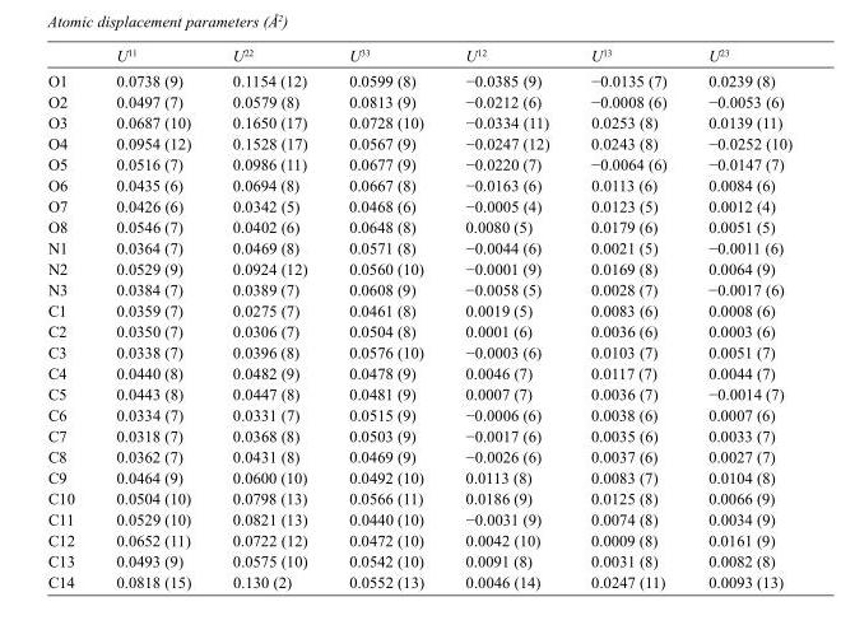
<table><thead><tr><td></td><td>U<sup>11</sup></td><td>U<sup>22</sup></td><td>U<sup>33</sup></td><td>U<sup>12</sup></td><td>U<sup>13</sup></td><td>U<sup>23</sup></td></tr></thead><tbody><tr><td>O1</td><td>0.0738 (9)</td><td>0.1154 (12)</td><td>0.0599 (8)</td><td>−0.0385 (9)</td><td>−0.0135 (7)</td><td>0.0239 (8)</td></tr><tr><td>O2</td><td>0.0497 (7)</td><td>0.0579 (8)</td><td>0.0813 (9)</td><td>−0.0212 (6)</td><td>−0.0008 (6)</td><td>−0.0053 (6)</td></tr><tr><td>O3</td><td>0.0687 (10)</td><td>0.1650 (17)</td><td>0.0728 (10)</td><td>−0.0334 (11)</td><td>0.0253 (8)</td><td>0.0139 (11)</td></tr><tr><td>O4</td><td>0.0954 (12)</td><td>0.1528 (17)</td><td>0.0567 (9)</td><td>−0.0247 (12)</td><td>0.0243 (8)</td><td>−0.0252 (10)</td></tr><tr><td>O5</td><td>0.0516 (7)</td><td>0.0986 (11)</td><td>0.0677 (9)</td><td>−0.0220 (7)</td><td>−0.0064 (6)</td><td>−0.0147 (7)</td></tr><tr><td>O6</td><td>0.0435 (6)</td><td>0.0694 (8)</td><td>0.0667 (8)</td><td>−0.0163 (6)</td><td>0.0113 (6)</td><td>0.0084 (6)</td></tr><tr><td>O7</td><td>0.0426 (6)</td><td>0.0342 (5)</td><td>0.0468 (6)</td><td>−0.0005 (4)</td><td>0.0123 (5)</td><td>0.0012 (4)</td></tr><tr><td>O8</td><td>0.0546 (7)</td><td>0.0402 (6)</td><td>0.0648 (8)</td><td>0.0080 (5)</td><td>0.0179 (6)</td><td>0.0051 (5)</td></tr><tr><td>N1</td><td>0.0364 (7)</td><td>0.0469 (8)</td><td>0.0571 (8)</td><td>−0.0044 (6)</td><td>0.0021 (5)</td><td>−0.0011 (6)</td></tr><tr><td>N2</td><td>0.0529 (9)</td><td>0.0924 (12)</td><td>0.0560 (10)</td><td>−0.0001 (9)</td><td>0.0169 (8)</td><td>0.0064 (9)</td></tr><tr><td>N3</td><td>0.0384 (7)</td><td>0.0389 (7)</td><td>0.0608 (9)</td><td>−0.0058 (5)</td><td>0.0028 (7)</td><td>−0.0017 (6)</td></tr><tr><td>C1</td><td>0.0359 (7)</td><td>0.0275 (7)</td><td>0.0461 (8)</td><td>0.0019 (5)</td><td>0.0083 (6)</td><td>0.0008 (6)</td></tr><tr><td>C2</td><td>0.0350 (7)</td><td>0.0306 (7)</td><td>0.0504 (8)</td><td>0.0001 (6)</td><td>0.0036 (6)</td><td>0.0003 (6)</td></tr><tr><td>C3</td><td>0.0338 (7)</td><td>0.0396 (8)</td><td>0.0576 (10)</td><td>−0.0003 (6)</td><td>0.0103 (7)</td><td>0.0051 (7)</td></tr><tr><td>C4</td><td>0.0440 (8)</td><td>0.0482 (9)</td><td>0.0478 (9)</td><td>0.0046 (7)</td><td>0.0117 (7)</td><td>0.0044 (7)</td></tr><tr><td>C5</td><td>0.0443 (8)</td><td>0.0447 (8)</td><td>0.0481 (9)</td><td>0.0007 (7)</td><td>0.0036 (7)</td><td>−0.0014 (7)</td></tr><tr><td>C6</td><td>0.0334 (7)</td><td>0.0331 (7)</td><td>0.0515 (9)</td><td>−0.0006 (6)</td><td>0.0038 (6)</td><td>0.0007 (6)</td></tr><tr><td>C7</td><td>0.0318 (7)</td><td>0.0368 (8)</td><td>0.0503 (9)</td><td>−0.0017 (6)</td><td>0.0035 (6)</td><td>0.0033 (7)</td></tr><tr><td>C8</td><td>0.0362 (7)</td><td>0.0431 (8)</td><td>0.0469 (9)</td><td>−0.0026 (6)</td><td>0.0037 (6)</td><td>0.0027 (7)</td></tr><tr><td>C9</td><td>0.0464 (9)</td><td>0.0600 (10)</td><td>0.0492 (10)</td><td>0.0113 (8)</td><td>0.0083 (7)</td><td>0.0104 (8)</td></tr><tr><td>C10</td><td>0.0504 (10)</td><td>0.0798 (13)</td><td>0.0566 (11)</td><td>0.0186 (9)</td><td>0.0125 (8)</td><td>0.0066 (9)</td></tr><tr><td>C11</td><td>0.0529 (10)</td><td>0.0821 (13)</td><td>0.0440 (10)</td><td>−0.0031 (9)</td><td>0.0074 (8)</td><td>0.0034 (9)</td></tr><tr><td>C12</td><td>0.0652 (11)</td><td>0.0722 (12)</td><td>0.0472 (10)</td><td>0.0042 (10)</td><td>0.0009 (8)</td><td>0.0161 (9)</td></tr><tr><td>C13</td><td>0.0493 (9)</td><td>0.0575 (10)</td><td>0.0542 (10)</td><td>0.0091 (8)</td><td>0.0031 (8)</td><td>0.0082 (8)</td></tr><tr><td>C14</td><td>0.0818 (15)</td><td>0.130 (2)</td><td>0.0552 (13)</td><td>0.0046 (14)</td><td>0.0247 (11)</td><td>0.0093 (13)</td></tr></tbody></table>